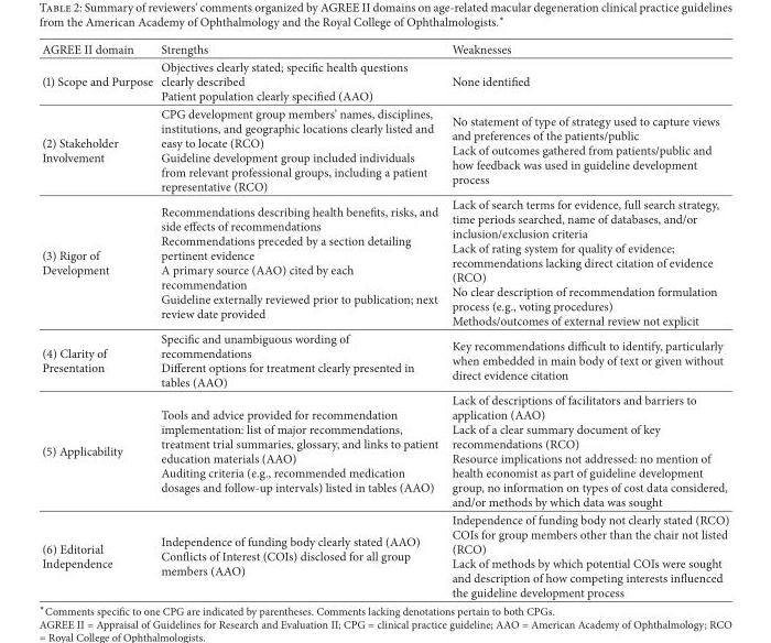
<table><thead><tr><td>AGREE II domain</td><td>Strengths</td><td>Weaknesses</td></tr></thead><tbody><tr><td>(1) Scope and Purpose</td><td>Objectives clearly stated; specific health questions clearly described Patient population clearly specified (AAO)</td><td>None identified</td></tr><tr><td>(2) Stakeholder Involvement</td><td>CPG development group members’ names, disciplines, institutions, and geographic locations clearly listed and easy to locate (RCO) Guideline development group included individuals from relevant professional groups, including a patient representative (RCO)</td><td>No statement of type of strategy used to capture views and preferences of the patients/public Lack of outcomes gathered from patients/public and how feedback was used in guideline development process</td></tr><tr><td>(3) Rigor of Development</td><td>Recommendations describing health benefits, risks, and side effects of recommendations Recommendations preceded by a section detailing pertinent evidence A primary source (AAO) cited by each recommendation Guideline externally reviewed prior to publication; next review date provided</td><td>Lack of search terms for evidence, full search strategy, time periods searched, name of databases, and/or inclusion/exclusion criteria Lack of rating system for quality of evidence; recommendations lacking direct citation of evidence (RCO) No clear description of recommendation formulation process (e.g., voting procedures) Methods/outcomes of external review not explicit</td></tr><tr><td>(4) Clarity of Presentation</td><td>Specific and unambiguous wording of recommendations Different options for treatment clearly presented in tables (AAO)</td><td>Key recommendations difficult to identify, particularly when embedded in main body of text or given without direct evidence citation</td></tr><tr><td>(5) Applicability</td><td>Tools and advice provided for recommendation implementation: list of major recommendations, treatment trial summaries, glossary, and links to patient education materials (AAO) Auditing criteria (e.g., recommended medication dosages and follow-up intervals) listed in tables (AAO)</td><td>Lack of descriptions of facilitators and barriers to application (AAO) Lack of a clear summary document of key recommendations (RCO) Resource implications not addressed: no mention of health economist as part of guideline development group, no information on types of cost data considered, and/or methods by which data was sought</td></tr><tr><td>(6) Editorial Independence</td><td>Independence of funding body clearly stated (AAO) Conflicts of Interest (COIs) disclosed for all group members (AAO)</td><td>Independence of funding body not clearly stated (RCO) COIs for group members other than the chair not listed (RCO) Lack of methods by which potential COIs were sought and description of how competing interests influenced the guideline development process</td></tr></tbody></table>